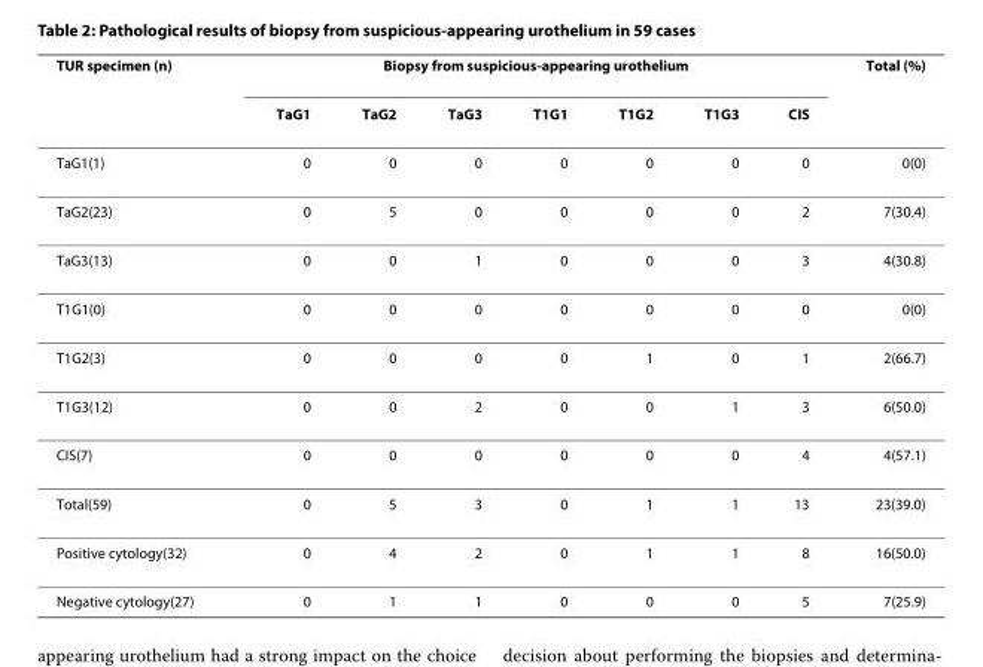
<table><thead><tr><td rowspan="2">TUR specimen (n)</td><td colspan="7">Biopsy from suspicious-appearing urothelium</td><td rowspan="2">Total (%)</td></tr><tr><td>TaG1</td><td>TaG2</td><td>TaG3</td><td>T1G1</td><td>T1G2</td><td>T1G3</td><td>CIS</td></tr></thead><tbody><tr><td>TaG1(1)</td><td>0</td><td>0</td><td>0</td><td>0</td><td>0</td><td>0</td><td>0</td><td>0(0)</td></tr><tr><td>TaG2(23)</td><td>0</td><td>5</td><td>0</td><td>0</td><td>0</td><td>0</td><td>2</td><td>7(30.4)</td></tr><tr><td>TaG3(13)</td><td>0</td><td>0</td><td>1</td><td>0</td><td>0</td><td>0</td><td>3</td><td>4(30.8)</td></tr><tr><td>T1G1(0)</td><td>0</td><td>0</td><td>0</td><td>0</td><td>0</td><td>0</td><td>0</td><td>0(0)</td></tr><tr><td>T1G2(3)</td><td>0</td><td>0</td><td>0</td><td>0</td><td>1</td><td>0</td><td>1</td><td>2(66.7)</td></tr><tr><td>T1G3(12)</td><td>0</td><td>0</td><td>2</td><td>0</td><td>0</td><td>1</td><td>3</td><td>6(50.0)</td></tr><tr><td>CIS(7)</td><td>0</td><td>0</td><td>0</td><td>0</td><td>0</td><td>0</td><td>4</td><td>4(57.1)</td></tr><tr><td>Total(59)</td><td>0</td><td>5</td><td>3</td><td>0</td><td>1</td><td>1</td><td>13</td><td>23(39.0)</td></tr><tr><td>Positive cytology(32)</td><td>0</td><td>4</td><td>2</td><td>0</td><td>1</td><td>1</td><td>8</td><td>16(50.0)</td></tr><tr><td>Negative cytology(27)</td><td>0</td><td>1</td><td>1</td><td>0</td><td>0</td><td>0</td><td>5</td><td>7(25.9)</td></tr></tbody></table>